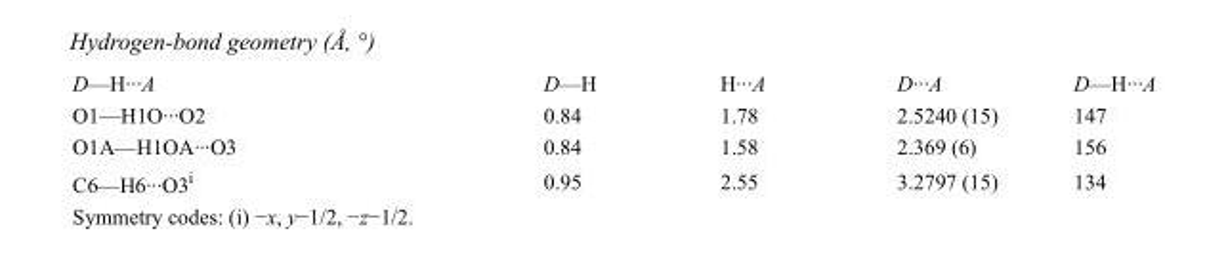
<table><tbody><tr><td>D—H···A</td><td>D—H</td><td>H···A</td><td>D···A</td><td>D—H···A</td></tr><tr><td>O1—H1O···O2</td><td>0.84</td><td>1.78</td><td>2.5240 (15)</td><td>147</td></tr><tr><td>O1A—H1OA···O3</td><td>0.84</td><td>1.58</td><td>2.369 (6)</td><td>156</td></tr><tr><td>C6—H6···O3<sup>i</sup></td><td>0.95</td><td>2.55</td><td>3.2797 (15)</td><td>134</td></tr></tbody></table>